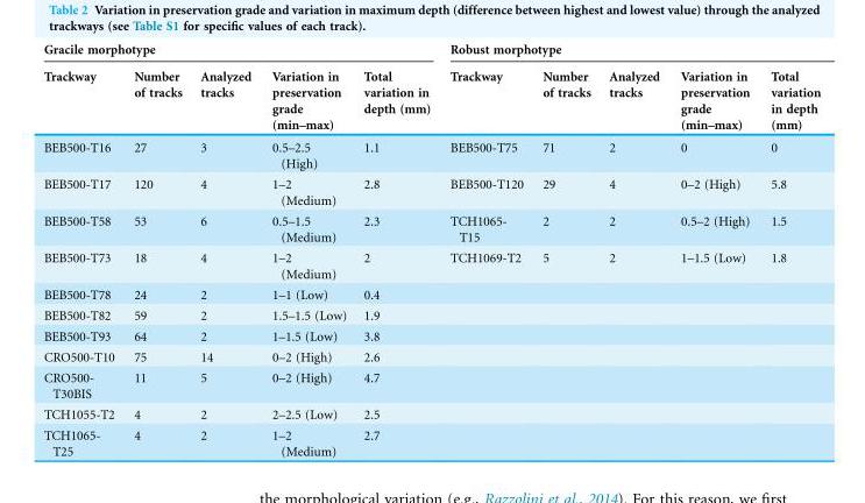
<table><thead><tr><td colspan="5">Gracile morphotype</td><td colspan="5">Robust morphotype</td></tr><tr><td>Trackway</td><td>Number of tracks</td><td>Analyzed tracks</td><td>Variation in preservation grade (min–max)</td><td>Total variation in depth (mm)</td><td>Trackway</td><td>Number of tracks</td><td>Analyzed tracks</td><td>Variation in preservation grade (min–max)</td><td>Total variation in depth (mm)</td></tr></thead><tbody><tr><td>BEB500-T16</td><td>27</td><td>3</td><td>0.5–2.5 (High)</td><td>1.1</td><td>BEB500-T75</td><td>71</td><td>2</td><td>0</td><td>0</td></tr><tr><td>BEB500-T17</td><td>120</td><td>4</td><td>1–2 (Medium)</td><td>2.8</td><td>BEB500-T120</td><td>29</td><td>4</td><td>0–2 (High)</td><td>5.8</td></tr><tr><td>BEB500-T58</td><td>53</td><td>6</td><td>0.5–1.5 (Medium)</td><td>2.3</td><td>TCH1065- T15</td><td>2</td><td>2</td><td>0.5–2 (High)</td><td>1.5</td></tr><tr><td>BEB500-T73</td><td>18</td><td>4</td><td>1–2 (Medium)</td><td>2</td><td>TCH1069-T2</td><td>5</td><td>2</td><td>1–1.5 (Low)</td><td>1.8</td></tr><tr><td>BEB500-T78</td><td>24</td><td>2</td><td>1–1 (Low)</td><td>0.4</td><td></td><td></td><td></td><td></td><td></td></tr><tr><td>BEB500-T82</td><td>59</td><td>2</td><td>1.5–1.5 (Low)</td><td>1.9</td><td></td><td></td><td></td><td></td><td></td></tr><tr><td>BEB500-T93</td><td>64</td><td>2</td><td>1–1.5 (Low)</td><td>3.8</td><td></td><td></td><td></td><td></td><td></td></tr><tr><td>CRO500-T10</td><td>75</td><td>14</td><td>0–2 (High)</td><td>2.6</td><td></td><td></td><td></td><td></td><td></td></tr><tr><td>CRO500- T30BIS</td><td>11</td><td>5</td><td>0–2 (High)</td><td>4.7</td><td></td><td></td><td></td><td></td><td></td></tr><tr><td>TCH1055-T2</td><td>4</td><td>2</td><td>2–2.5 (Low)</td><td>2.5</td><td></td><td></td><td></td><td></td><td></td></tr><tr><td>TCH1065- T25</td><td>4</td><td>2</td><td>1–2 (Medium)</td><td>2.7</td><td></td><td></td><td></td><td></td><td></td></tr></tbody></table>